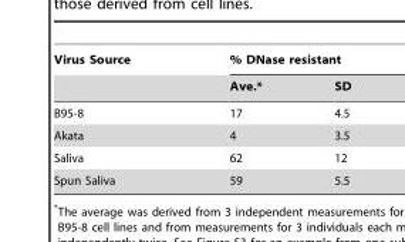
<table><thead><tr><td rowspan="2">Virus Source</td><td colspan="2">% DNase resistant</td></tr><tr><td>Ave.*</td><td>SD</td></tr></thead><tbody><tr><td>B95-8</td><td>17</td><td>4.5</td></tr><tr><td>Akata</td><td>4</td><td>3.5</td></tr><tr><td>Saliva</td><td>62</td><td>12</td></tr><tr><td>Spun Saliva</td><td>59</td><td>5.5</td></tr></tbody></table>